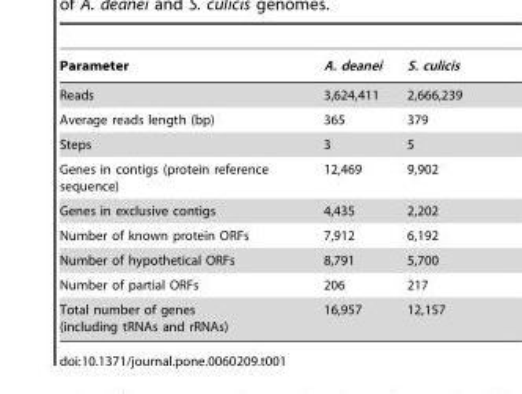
<table><thead><tr><td>Parameter</td><td>A. deanei</td><td>S. culicis</td></tr></thead><tbody><tr><td>Reads</td><td>3,624,411</td><td>2,666,239</td></tr><tr><td>Average reads length (bp)</td><td>365</td><td>379</td></tr><tr><td>Steps</td><td>3</td><td>5</td></tr><tr><td>Genes in contigs (protein reference sequence)</td><td>12,469</td><td>9,902</td></tr><tr><td>Genes in exclusive contigs</td><td>4,435</td><td>2,202</td></tr><tr><td>Number of known protein ORFs</td><td>7,912</td><td>6,192</td></tr><tr><td>Number of hypothetical ORFs</td><td>8,791</td><td>5,700</td></tr><tr><td>Number of partial ORFs</td><td>206</td><td>217</td></tr><tr><td>Total number of genes (including tRNAs and rRNAs)</td><td>16,957</td><td>12,157</td></tr></tbody></table>